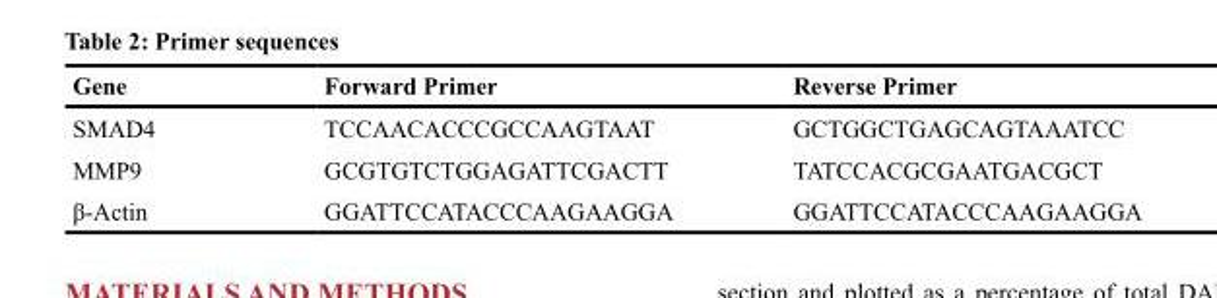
<table><thead><tr><td>Gene</td><td>Forward Primer</td><td>Reverse Primer</td></tr></thead><tbody><tr><td>SMAD4</td><td>TCCAACACCCGCCAAGTAAT</td><td>GCTGGCTGAGCAGTAAATCC</td></tr><tr><td>MMP9</td><td>GCGTGTCTGGAGATTCGACTT</td><td>TATCCACGCGAATGACGCT</td></tr><tr><td>β-Actin</td><td>GGATTCCATACCCAAGAAGGA</td><td>GGATTCCATACCCAAGAAGGA</td></tr></tbody></table>